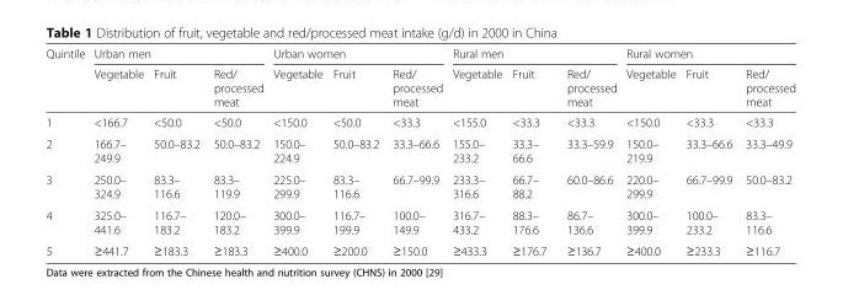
<table><thead><tr><td rowspan="2">Quintile</td><td colspan="3">Urban men</td><td colspan="3">Urban women</td><td colspan="3">Rural men</td><td colspan="3">Rural women</td></tr><tr><td>Vegetable</td><td>Fruit</td><td>Red/ processed meat</td><td>Vegetable</td><td>Fruit</td><td>Red/ processed meat</td><td>Vegetable</td><td>Fruit</td><td>Red/ processed meat</td><td>Vegetable</td><td>Fruit</td><td>Red/ processed meat</td></tr></thead><tbody><tr><td>1</td><td>&lt;166.7</td><td>&lt;50.0</td><td>&lt;50.0</td><td>&lt;150.0</td><td>&lt;50.0</td><td>&lt;33.3</td><td>&lt;155.0</td><td>&lt;33.3</td><td>&lt;33.3</td><td>&lt;150.0</td><td>&lt;33.3</td><td>&lt;33.3</td></tr><tr><td>2</td><td>166.7– 249.9</td><td>50.0–83.2</td><td>50.0–83.2</td><td>150.0– 224.9</td><td>50.0–83.2</td><td>33.3–66.6</td><td>155.0– 233.2</td><td>33.3– 66.6</td><td>33.3–59.9</td><td>150.0– 219.9</td><td>33.3–66.6</td><td>33.3–49.9</td></tr><tr><td>3</td><td>250.0– 324.9</td><td>83.3– 116.6</td><td>83.3– 119.9</td><td>225.0– 299.9</td><td>83.3– 116.6</td><td>66.7–99.9</td><td>233.3– 316.6</td><td>66.7– 88.2</td><td>60.0–86.6</td><td>220.0– 299.9</td><td>66.7–99.9</td><td>50.0–83.2</td></tr><tr><td>4</td><td>325.0– 441.6</td><td>116.7– 183.2</td><td>120.0– 183.2</td><td>300.0– 399.9</td><td>116.7– 199.9</td><td>100.0– 149.9</td><td>316.7– 433.2</td><td>88.3– 176.6</td><td>86.7– 136.6</td><td>300.0– 399.9</td><td>100.0– 233.2</td><td>83.3– 116.6</td></tr><tr><td>5</td><td>≥441.7</td><td>≥183.3</td><td>≥183.3</td><td>≥400.0</td><td>≥200.0</td><td>≥150.0</td><td>≥433.3</td><td>≥176.7</td><td>≥136.7</td><td>≥400.0</td><td>≥233.3</td><td>≥116.7</td></tr></tbody></table>